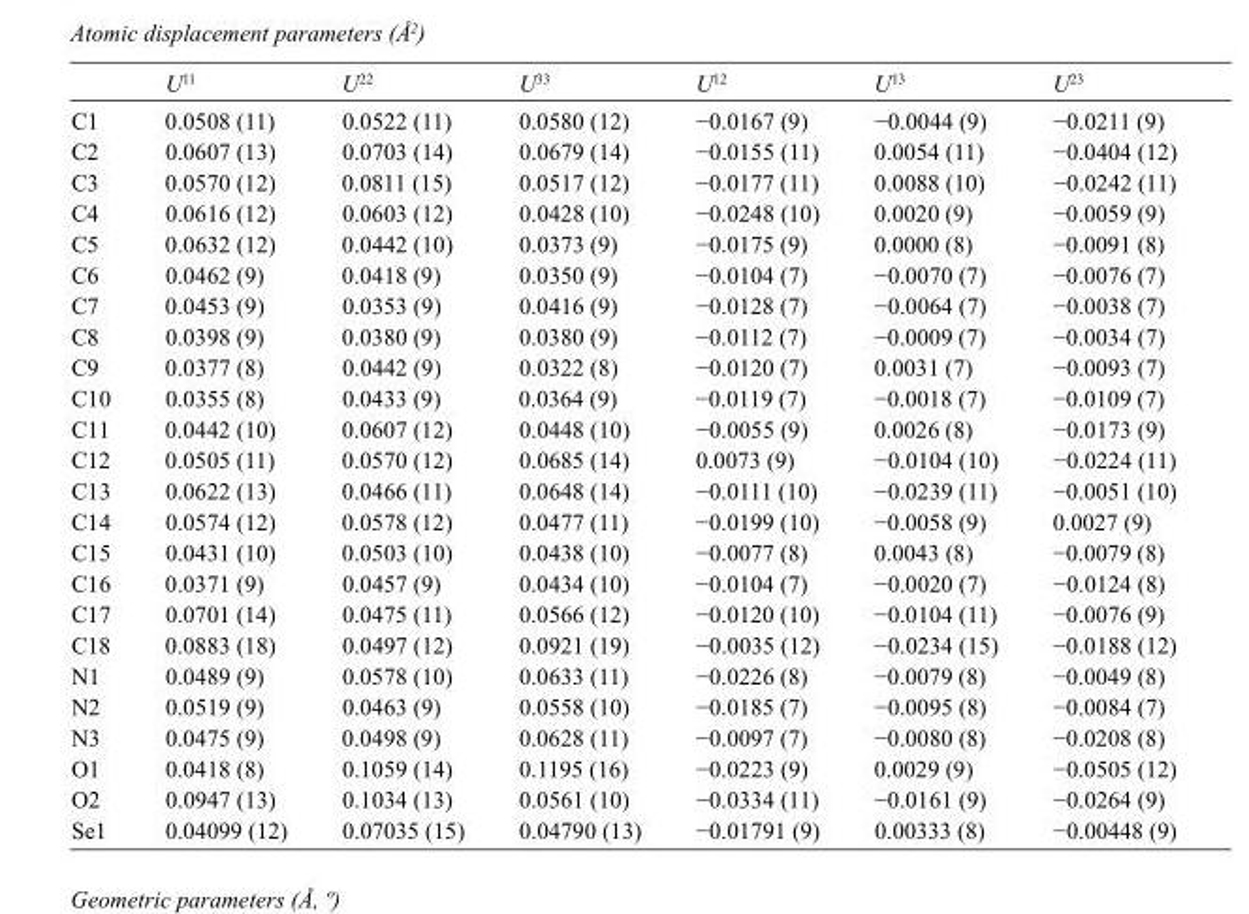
<table><thead><tr><td></td><td>U<sup>11</sup></td><td>U<sup>22</sup></td><td>U<sup>33</sup></td><td>U<sup>12</sup></td><td>U<sup>13</sup></td><td>U<sup>23</sup></td></tr></thead><tbody><tr><td>C1</td><td>0.0508 (11)</td><td>0.0522 (11)</td><td>0.0580 (12)</td><td>−0.0167 (9)</td><td>−0.0044 (9)</td><td>−0.0211 (9)</td></tr><tr><td>C2</td><td>0.0607 (13)</td><td>0.0703 (14)</td><td>0.0679 (14)</td><td>−0.0155 (11)</td><td>0.0054 (11)</td><td>−0.0404 (12)</td></tr><tr><td>C3</td><td>0.0570 (12)</td><td>0.0811 (15)</td><td>0.0517 (12)</td><td>−0.0177 (11)</td><td>0.0088 (10)</td><td>−0.0242 (11)</td></tr><tr><td>C4</td><td>0.0616 (12)</td><td>0.0603 (12)</td><td>0.0428 (10)</td><td>−0.0248 (10)</td><td>0.0020 (9)</td><td>−0.0059 (9)</td></tr><tr><td>C5</td><td>0.0632 (12)</td><td>0.0442 (10)</td><td>0.0373 (9)</td><td>−0.0175 (9)</td><td>0.0000 (8)</td><td>−0.0091 (8)</td></tr><tr><td>C6</td><td>0.0462 (9)</td><td>0.0418 (9)</td><td>0.0350 (9)</td><td>−0.0104 (7)</td><td>−0.0070 (7)</td><td>−0.0076 (7)</td></tr><tr><td>C7</td><td>0.0453 (9)</td><td>0.0353 (9)</td><td>0.0416 (9)</td><td>−0.0128 (7)</td><td>−0.0064 (7)</td><td>−0.0038 (7)</td></tr><tr><td>C8</td><td>0.0398 (9)</td><td>0.0380 (9)</td><td>0.0380 (9)</td><td>−0.0112 (7)</td><td>−0.0009 (7)</td><td>−0.0034 (7)</td></tr><tr><td>C9</td><td>0.0377 (8)</td><td>0.0442 (9)</td><td>0.0322 (8)</td><td>−0.0120 (7)</td><td>0.0031 (7)</td><td>−0.0093 (7)</td></tr><tr><td>C10</td><td>0.0355 (8)</td><td>0.0433 (9)</td><td>0.0364 (9)</td><td>−0.0119 (7)</td><td>−0.0018 (7)</td><td>−0.0109 (7)</td></tr><tr><td>C11</td><td>0.0442 (10)</td><td>0.0607 (12)</td><td>0.0448 (10)</td><td>−0.0055 (9)</td><td>0.0026 (8)</td><td>−0.0173 (9)</td></tr><tr><td>C12</td><td>0.0505 (11)</td><td>0.0570 (12)</td><td>0.0685 (14)</td><td>0.0073 (9)</td><td>−0.0104 (10)</td><td>−0.0224 (11)</td></tr><tr><td>C13</td><td>0.0622 (13)</td><td>0.0466 (11)</td><td>0.0648 (14)</td><td>−0.0111 (10)</td><td>−0.0239 (11)</td><td>−0.0051 (10)</td></tr><tr><td>C14</td><td>0.0574 (12)</td><td>0.0578 (12)</td><td>0.0477 (11)</td><td>−0.0199 (10)</td><td>−0.0058 (9)</td><td>0.0027 (9)</td></tr><tr><td>C15</td><td>0.0431 (10)</td><td>0.0503 (10)</td><td>0.0438 (10)</td><td>−0.0077 (8)</td><td>0.0043 (8)</td><td>−0.0079 (8)</td></tr><tr><td>C16</td><td>0.0371 (9)</td><td>0.0457 (9)</td><td>0.0434 (10)</td><td>−0.0104 (7)</td><td>−0.0020 (7)</td><td>−0.0124 (8)</td></tr><tr><td>C17</td><td>0.0701 (14)</td><td>0.0475 (11)</td><td>0.0566 (12)</td><td>−0.0120 (10)</td><td>−0.0104 (11)</td><td>−0.0076 (9)</td></tr><tr><td>C18</td><td>0.0883 (18)</td><td>0.0497 (12)</td><td>0.0921 (19)</td><td>−0.0035 (12)</td><td>−0.0234 (15)</td><td>−0.0188 (12)</td></tr><tr><td>N1</td><td>0.0489 (9)</td><td>0.0578 (10)</td><td>0.0633 (11)</td><td>−0.0226 (8)</td><td>−0.0079 (8)</td><td>−0.0049 (8)</td></tr><tr><td>N2</td><td>0.0519 (9)</td><td>0.0463 (9)</td><td>0.0558 (10)</td><td>−0.0185 (7)</td><td>−0.0095 (8)</td><td>−0.0084 (7)</td></tr><tr><td>N3</td><td>0.0475 (9)</td><td>0.0498 (9)</td><td>0.0628 (11)</td><td>−0.0097 (7)</td><td>−0.0080 (8)</td><td>−0.0208 (8)</td></tr><tr><td>O1</td><td>0.0418 (8)</td><td>0.1059 (14)</td><td>0.1195 (16)</td><td>−0.0223 (9)</td><td>0.0029 (9)</td><td>−0.0505 (12)</td></tr><tr><td>O2</td><td>0.0947 (13)</td><td>0.1034 (13)</td><td>0.0561 (10)</td><td>−0.0334 (11)</td><td>−0.0161 (9)</td><td>−0.0264 (9)</td></tr><tr><td>Se1</td><td>0.04099 (12)</td><td>0.07035 (15)</td><td>0.04790 (13)</td><td>−0.01791 (9)</td><td>0.00333 (8)</td><td>−0.00448 (9)</td></tr></tbody></table>